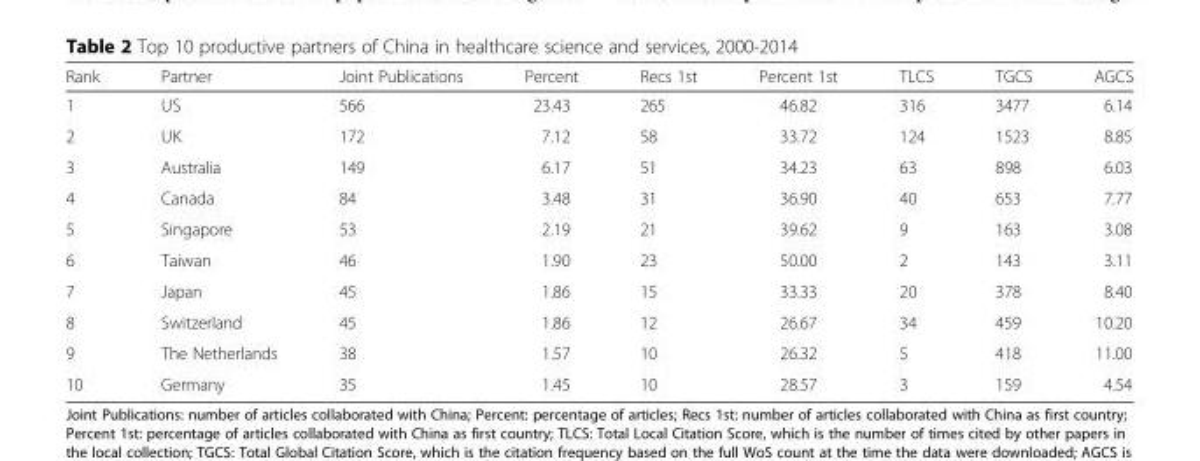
<table><thead><tr><td>Rank</td><td>Partner</td><td>Joint Publications</td><td>Percent</td><td>Recs 1st</td><td>Percent 1st</td><td>TLCS</td><td>TGCS</td><td>AGCS</td></tr></thead><tbody><tr><td>1</td><td>US</td><td>566</td><td>23.43</td><td>265</td><td>46.82</td><td>316</td><td>3477</td><td>6.14</td></tr><tr><td>2</td><td>UK</td><td>172</td><td>7.12</td><td>58</td><td>33.72</td><td>124</td><td>1523</td><td>8.85</td></tr><tr><td>3</td><td>Australia</td><td>149</td><td>6.17</td><td>51</td><td>34.23</td><td>63</td><td>898</td><td>6.03</td></tr><tr><td>4</td><td>Canada</td><td>84</td><td>3.48</td><td>31</td><td>36.90</td><td>40</td><td>653</td><td>7.77</td></tr><tr><td>5</td><td>Singapore</td><td>53</td><td>2.19</td><td>21</td><td>39.62</td><td>9</td><td>163</td><td>3.08</td></tr><tr><td>6</td><td>Taiwan</td><td>46</td><td>1.90</td><td>23</td><td>50.00</td><td>2</td><td>143</td><td>3.11</td></tr><tr><td>7</td><td>Japan</td><td>45</td><td>1.86</td><td>15</td><td>33.33</td><td>20</td><td>378</td><td>8.40</td></tr><tr><td>8</td><td>Switzerland</td><td>45</td><td>1.86</td><td>12</td><td>26.67</td><td>34</td><td>459</td><td>10.20</td></tr><tr><td>9</td><td>The Netherlands</td><td>38</td><td>1.57</td><td>10</td><td>26.32</td><td>5</td><td>418</td><td>11.00</td></tr><tr><td>10</td><td>Germany</td><td>35</td><td>1.45</td><td>10</td><td>28.57</td><td>3</td><td>159</td><td>4.54</td></tr></tbody></table>